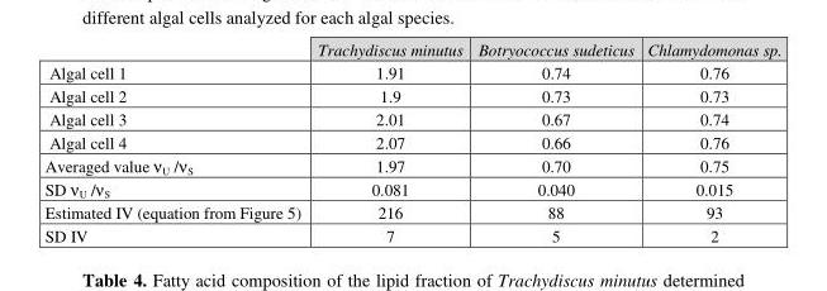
<table><thead><tr><td></td><td>Trachydiscus minutus</td><td>Botryococcus sudeticus</td><td>Chlamydomonas sp.</td></tr></thead><tbody><tr><td>Algal cell 1</td><td>1.91</td><td>0.74</td><td>0.76</td></tr><tr><td>Algal cell 2</td><td>1.9</td><td>0.73</td><td>0.73</td></tr><tr><td>Algal cell 3</td><td>2.01</td><td>0.67</td><td>0.74</td></tr><tr><td>Algal cell 4</td><td>2.07</td><td>0.66</td><td>0.76</td></tr><tr><td>Averaged value ν<sub>U</sub> /ν<sub>S</sub></td><td>1.97</td><td>0.70</td><td>0.75</td></tr><tr><td>SD ν<sub>U</sub> /ν<sub>S</sub></td><td>0.081</td><td>0.040</td><td>0.015</td></tr><tr><td>Estimated IV (equation from Figure 5)</td><td>216</td><td>88</td><td>93</td></tr><tr><td>SD IV</td><td>7</td><td>5</td><td>2</td></tr></tbody></table>